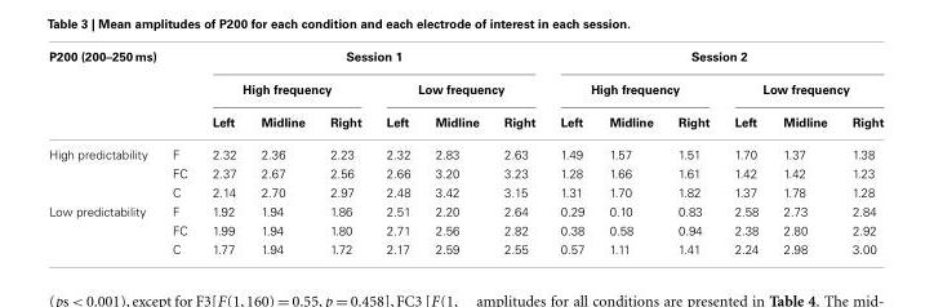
<table><thead><tr><td colspan="2">P200 (200–250 ms)</td><td colspan="6">Session 1</td><td colspan="6">Session 2</td></tr><tr><td rowspan="2"></td><td rowspan="2"></td><td colspan="3">High frequency</td><td colspan="3">Low frequency</td><td colspan="3">High frequency</td><td colspan="3">Low frequency</td></tr><tr><td>Left</td><td>Midline</td><td>Right</td><td>Left</td><td>Midline</td><td>Right</td><td>Left</td><td>Midline</td><td>Right</td><td>Left</td><td>Midline</td><td>Right</td></tr></thead><tbody><tr><td rowspan="3">High predictability</td><td>F</td><td>2.32</td><td>2.36</td><td>2.23</td><td>2.32</td><td>2.83</td><td>2.63</td><td>1.49</td><td>1.57</td><td>1.51</td><td>1.70</td><td>1.37</td><td>1.38</td></tr><tr><td>FC</td><td>2.37</td><td>2.67</td><td>2.56</td><td>2.66</td><td>3.20</td><td>3.23</td><td>1.28</td><td>1.66</td><td>1.61</td><td>1.42</td><td>1.42</td><td>1.23</td></tr><tr><td>C</td><td>2.14</td><td>2.70</td><td>2.97</td><td>2.48</td><td>3.42</td><td>3.15</td><td>1.31</td><td>1.70</td><td>1.82</td><td>1.37</td><td>1.78</td><td>1.28</td></tr><tr><td rowspan="3">Low predictability</td><td>F</td><td>1.92</td><td>1.94</td><td>1.86</td><td>2.51</td><td>2.20</td><td>2.64</td><td>0.29</td><td>0.10</td><td>0.83</td><td>2.58</td><td>2.73</td><td>2.84</td></tr><tr><td>FC</td><td>1.99</td><td>1.94</td><td>1.80</td><td>2.71</td><td>2.56</td><td>2.82</td><td>0.38</td><td>0.58</td><td>0.94</td><td>2.38</td><td>2.80</td><td>2.92</td></tr><tr><td>C</td><td>1.77</td><td>1.94</td><td>1.72</td><td>2.17</td><td>2.59</td><td>2.55</td><td>0.57</td><td>1.11</td><td>1.41</td><td>2.24</td><td>2.98</td><td>3.00</td></tr></tbody></table>